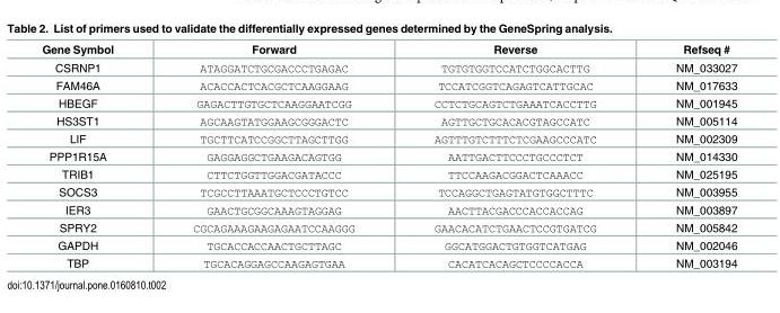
<table><thead><tr><td>Gene Symbol</td><td>Forward</td><td>Reverse</td><td>Refseq #</td></tr></thead><tbody><tr><td>CSRNP1</td><td>ATAGGATCTGCGACCCTGAGAC</td><td>TGTGTGGTCCATCTGGCACTTG</td><td>NM_033027</td></tr><tr><td>FAM46A</td><td>ACACCACTCACGCTCAAGGAAG</td><td>TCCATCGGTCAGAGTCATTGCAC</td><td>NM_017633</td></tr><tr><td>HBEGF</td><td>GAGACTTGTGCTCAAGGAATCGG</td><td>CCTCTGCAGTCTGAAATCACCTTG</td><td>NM_001945</td></tr><tr><td>HS3ST1</td><td>AGCAAGTATGGAAGCGGGACTC</td><td>AGTTGCTGCACACGTAGCCATC</td><td>NM_005114</td></tr><tr><td>LIF</td><td>TGCTTCATCCGGCTTAGCTTGG</td><td>AGTTTGTCTTTCTCGAAGCCCATC</td><td>NM_002309</td></tr><tr><td>PPP1R15A</td><td>GAGGAGGCTGAAGACAGTGG</td><td>AATTGACTTCCCTGCCCTCT</td><td>NM_014330</td></tr><tr><td>TRIB1</td><td>CTTCTGGTTGGACGATACCC</td><td>TTCCAAGACGGACTCAAACC</td><td>NM_025195</td></tr><tr><td>SOCS3</td><td>TCGCCTTAAATGCTCCCTGTCC</td><td>TCCAGGCTGAGTATGTGGCTTTC</td><td>NM_003955</td></tr><tr><td>IER3</td><td>GAACTGCGGCAAAGTAGGAG</td><td>AACTTACGACCCACCACCAG</td><td>NM_003897</td></tr><tr><td>SPRY2</td><td>CGCAGAAAGAAGAGAATCCAAGGG</td><td>GAACACATCTGAACTCCGTGATCG</td><td>NM_005842</td></tr><tr><td>GAPDH</td><td>TGCACCACCAACTGCTTAGC</td><td>GGCATGGACTGTGGTCATGAG</td><td>NM_002046</td></tr><tr><td>TBP</td><td>TGCACAGGAGCCAAGAGTGAA</td><td>CACATCACAGCTCCCCACCA</td><td>NM_003194</td></tr></tbody></table>